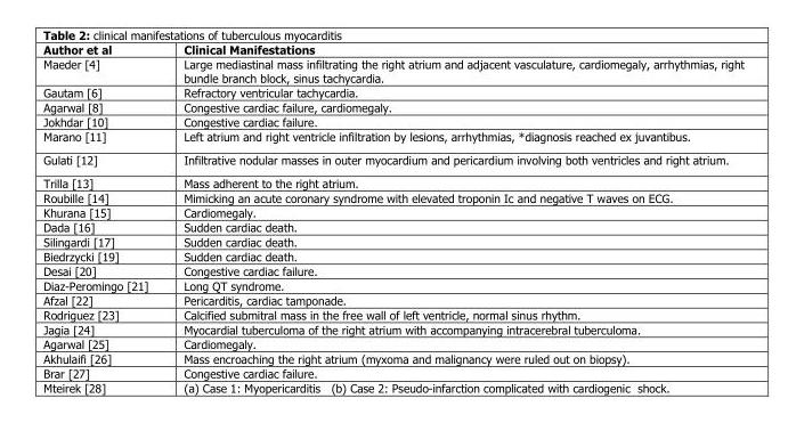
<table><thead><tr><td>Author et al</td><td>Clinical Manifestations</td></tr></thead><tbody><tr><td>Maeder [4]</td><td>Large mediastinal mass infiltrating the right atrium and adjacent vasculature, cardiomegaly, arrhythmias, right bundle branch block, sinus tachycardia.</td></tr><tr><td>Gautam [6]</td><td>Refractory ventricular tachycardia.</td></tr><tr><td>Agarwal [8]</td><td>Congestive cardiac failure, cardiomegaly.</td></tr><tr><td>Jokhdar [10]</td><td>Congestive cardiac failure.</td></tr><tr><td>Marano [11]</td><td>Left atrium and right ventricle infiltration by lesions, arrhythmias, *diagnosis reached ex juvantibus.</td></tr><tr><td>Gulati [12]</td><td>Infiltrative nodular masses in outer myocardium and pericardium involving both ventricles and right atrium.</td></tr><tr><td>Trilla [13]</td><td>Mass adherent to the right atrium.</td></tr><tr><td>Roubille [14]</td><td>Mimicking an acute coronary syndrome with elevated troponin Ic and negative T waves on ECG.</td></tr><tr><td>Khurana [15]</td><td>Cardiomegaly.</td></tr><tr><td>Dada [16]</td><td>Sudden cardiac death.</td></tr><tr><td>Silingardi [17]</td><td>Sudden cardiac death.</td></tr><tr><td>Biedrzycki [19]</td><td>Sudden cardiac death.</td></tr><tr><td>Desai [20]</td><td>Congestive cardiac failure.</td></tr><tr><td>Diaz-Peromingo [21]</td><td>Long QT syndrome.</td></tr><tr><td>Afzal [22]</td><td>Pericarditis, cardiac tamponade.</td></tr><tr><td>Rodriguez [23]</td><td>Calcified submitral mass in the free wall of left ventricle, normal sinus rhythm.</td></tr><tr><td>Jagia [24]</td><td>Myocardial tuberculoma of the right atrium with accompanying intracerebral tuberculoma.</td></tr><tr><td>Agarwal [25]</td><td>Cardiomegaly.</td></tr><tr><td>Akhulaifi [26]</td><td>Mass encroaching the right atrium (myxoma and malignancy were ruled out on biopsy).</td></tr><tr><td>Brar [27]</td><td>Congestive cardiac failure.</td></tr><tr><td>Mteirek [28]</td><td>(a) Case 1: Myopericarditis (b) Case 2: Pseudo-infarction complicated with cardiogenic shock.</td></tr></tbody></table>